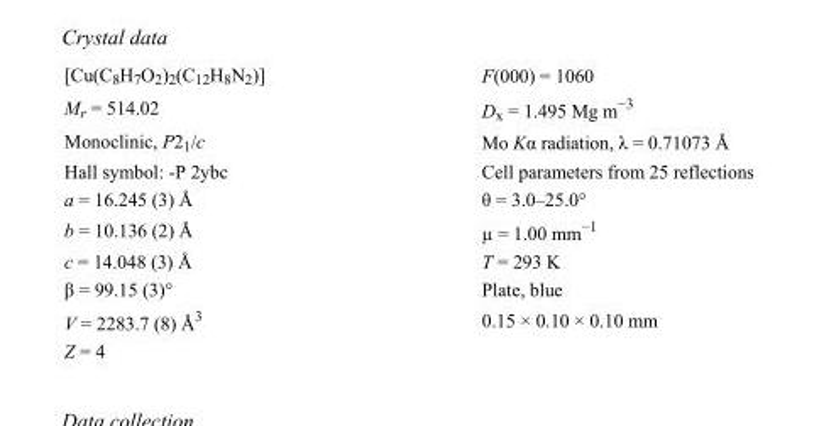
<table><tbody><tr><td>[Cu(C<sub>8</sub>H<sub>7</sub>O<sub>2</sub>)<sub>2</sub>(C<sub>12</sub>H<sub>8</sub>N<sub>2</sub>)]</td><td>F(000) = 1060</td></tr><tr><td>M<sub>r</sub> = 514.02</td><td>D<sub>x</sub> = 1.495 Mg m<sup>−3</sup></td></tr><tr><td>Monoclinic, P2<sub>1</sub>/c</td><td>Mo Kα radiation, λ = 0.71073 Å</td></tr><tr><td>Hall symbol: -P 2ybc</td><td>Cell parameters from 25 reflections</td></tr><tr><td>a = 16.245 (3) Å</td><td>θ = 3.0–25.0°</td></tr><tr><td>b = 10.136 (2) Å</td><td>µ = 1.00 mm<sup>−1</sup></td></tr><tr><td>c = 14.048 (3) Å</td><td>T = 293 K</td></tr><tr><td>β = 99.15 (3)°</td><td>Plate, blue</td></tr><tr><td>V = 2283.7 (8) Å<sup>3</sup></td><td>0.15 × 0.10 × 0.10 mm</td></tr><tr><td>Z = 4</td><td></td></tr></tbody></table>